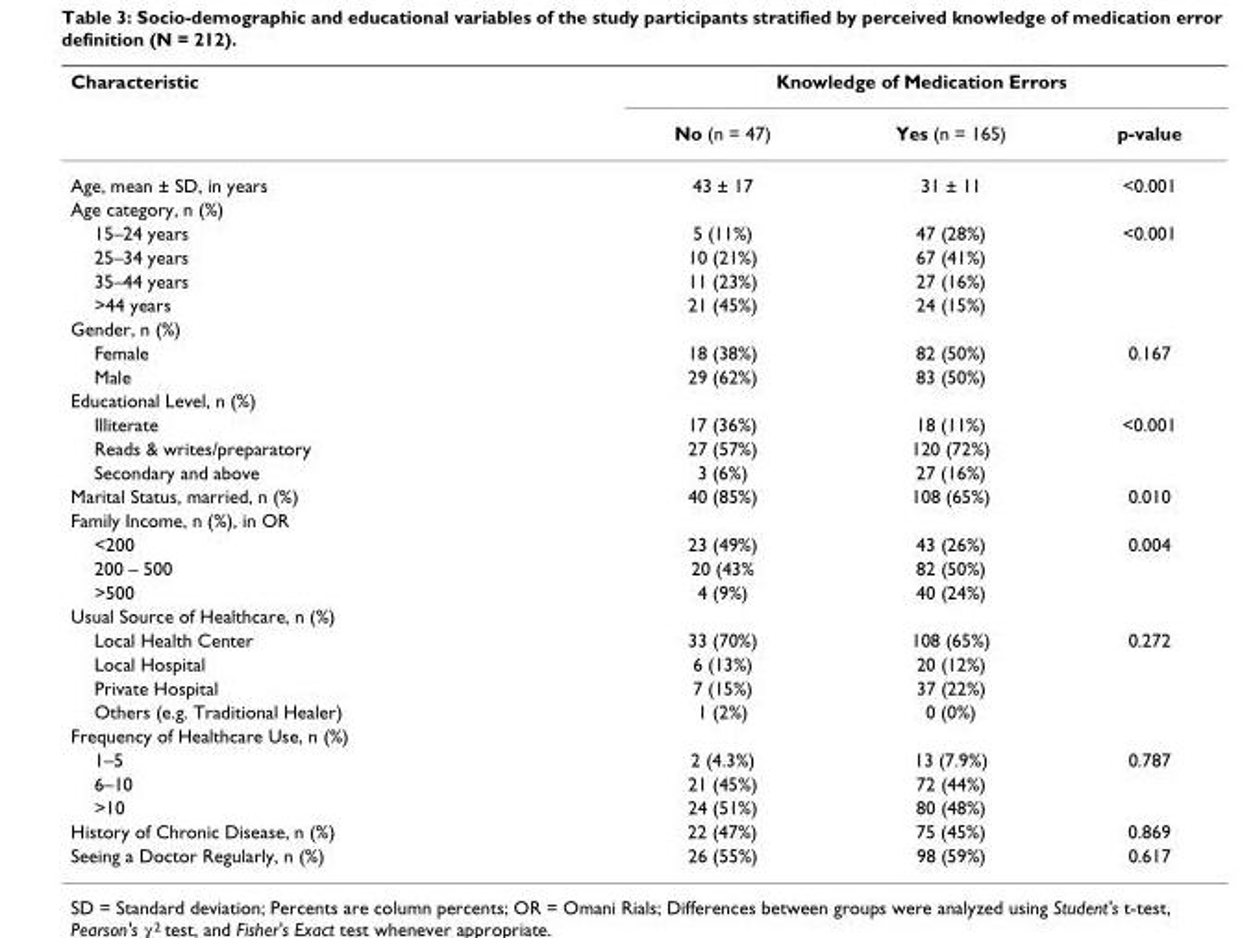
<table><thead><tr><td rowspan="2">Characteristic</td><td colspan="3">Knowledge of Medication Errors</td></tr><tr><td>No (n = 47)</td><td>Yes (n = 165)</td><td>p-value</td></tr></thead><tbody><tr><td>Age, mean ± SD, in years</td><td>43 ± 17</td><td>31 ± 11</td><td>&lt;0.001</td></tr><tr><td colspan="4">Age category, n (%)</td></tr><tr><td>15–24 years</td><td>5 (11%)</td><td>47 (28%)</td><td>&lt;0.001</td></tr><tr><td>25–34 years</td><td>10 (21%)</td><td>67 (41%)</td><td></td></tr><tr><td>35–44 years</td><td>11 (23%)</td><td>27 (16%)</td><td></td></tr><tr><td>&gt;44 years</td><td>21 (45%)</td><td>24 (15%)</td><td></td></tr><tr><td colspan="4">Gender, n (%)</td></tr><tr><td>Female</td><td>18 (38%)</td><td>82 (50%)</td><td>0.167</td></tr><tr><td>Male</td><td>29 (62%)</td><td>83 (50%)</td><td></td></tr><tr><td colspan="4">Educational Level, n (%)</td></tr><tr><td>Illiterate</td><td>17 (36%)</td><td>18 (11%)</td><td>&lt;0.001</td></tr><tr><td>Reads &amp; writes/preparatory</td><td>27 (57%)</td><td>120 (72%)</td><td></td></tr><tr><td>Secondary and above</td><td>3 (6%)</td><td>27 (16%)</td><td></td></tr><tr><td>Marital Status, married, n (%)</td><td>40 (85%)</td><td>108 (65%)</td><td>0.010</td></tr><tr><td colspan="4">Family Income, n (%), in OR</td></tr><tr><td>&lt;200</td><td>23 (49%)</td><td>43 (26%)</td><td>0.004</td></tr><tr><td>200 – 500</td><td>20 (43%</td><td>82 (50%)</td><td></td></tr><tr><td>&gt;500</td><td>4 (9%)</td><td>40 (24%)</td><td></td></tr><tr><td colspan="4">Usual Source of Healthcare, n (%)</td></tr><tr><td>Local Health Center</td><td>33 (70%)</td><td>108 (65%)</td><td>0.272</td></tr><tr><td>Local Hospital</td><td>6 (13%)</td><td>20 (12%)</td><td></td></tr><tr><td>Private Hospital</td><td>7 (15%)</td><td>37 (22%)</td><td></td></tr><tr><td>Others (e.g. Traditional Healer)</td><td>1 (2%)</td><td>0 (0%)</td><td></td></tr><tr><td colspan="4">Frequency of Healthcare Use, n (%)</td></tr><tr><td>1–5</td><td>2 (4.3%)</td><td>13 (7.9%)</td><td>0.787</td></tr><tr><td>6–10</td><td>21 (45%)</td><td>72 (44%)</td><td></td></tr><tr><td>&gt;10</td><td>24 (51%)</td><td>80 (48%)</td><td></td></tr><tr><td>History of Chronic Disease, n (%)</td><td>22 (47%)</td><td>75 (45%)</td><td>0.869</td></tr><tr><td>Seeing a Doctor Regularly, n (%)</td><td>26 (55%)</td><td>98 (59%)</td><td>0.617</td></tr></tbody></table>